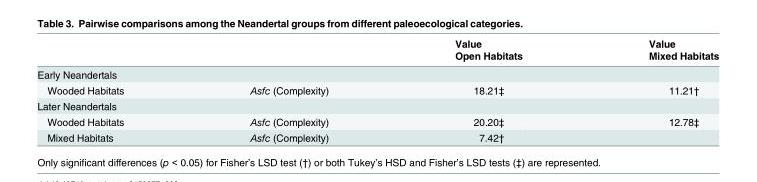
<table><thead><tr><td rowspan="2"></td><td rowspan="2"></td><td rowspan="2">Value Open Habitats</td><td rowspan="2">Value Mixed Habitats</td></tr><tr></tr></thead><tbody><tr><td colspan="4">Early Neandertals</td></tr><tr><td>Wooded Habitats</td><td>Asfc (Complexity)</td><td>18.21‡</td><td>11.21†</td></tr><tr><td colspan="4">Later Neandertals</td></tr><tr><td>Wooded Habitats</td><td>Asfc (Complexity)</td><td>20.20‡</td><td>12.78‡</td></tr><tr><td>Mixed Habitats</td><td>Asfc (Complexity)</td><td>7.42†</td><td></td></tr></tbody></table>